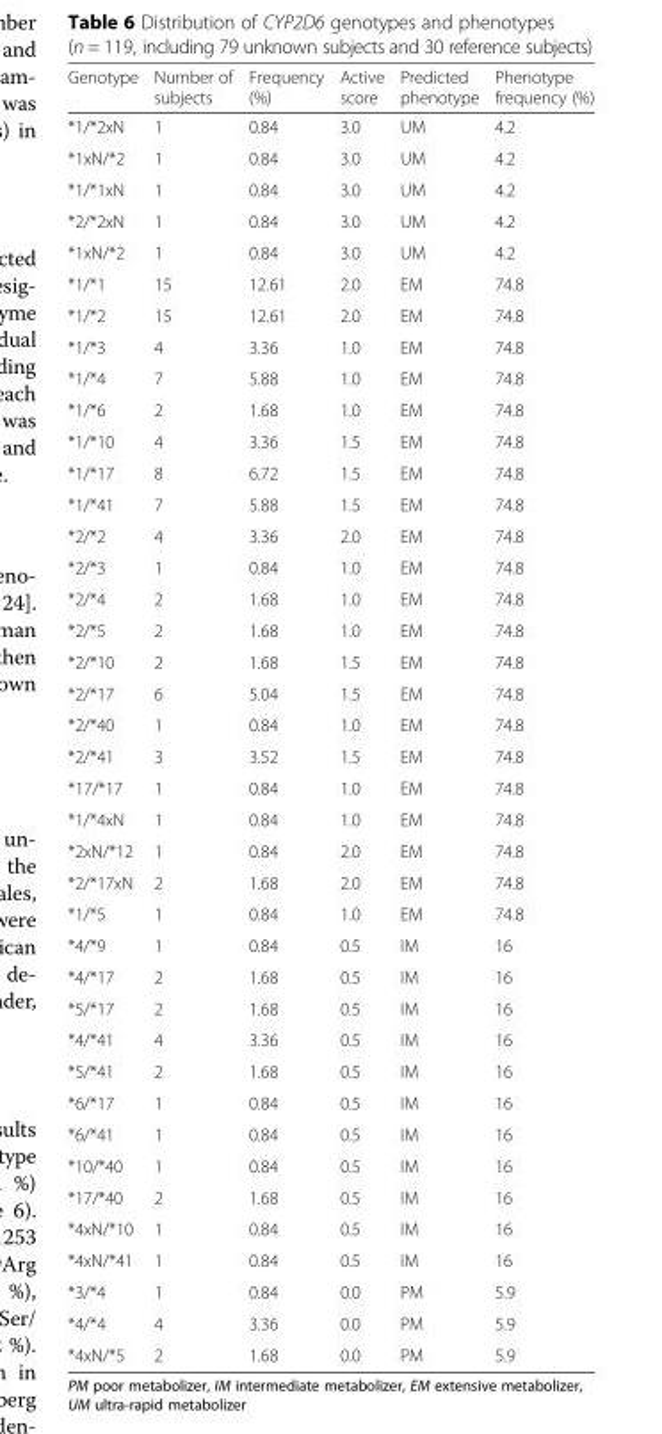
<table><thead><tr><td>Genotype</td><td>Number of subjects</td><td>Frequency (%)</td><td>Active score</td><td>Predicted phenotype</td><td>Phenotype frequency (%)</td></tr></thead><tbody><tr><td>*1/*2xN</td><td>1</td><td>0.84</td><td>3.0</td><td>UM</td><td>4.2</td></tr><tr><td>*1xN/*2</td><td>1</td><td>0.84</td><td>3.0</td><td>UM</td><td>4.2</td></tr><tr><td>*1/*1xN</td><td>1</td><td>0.84</td><td>3.0</td><td>UM</td><td>4.2</td></tr><tr><td>*2/*2xN</td><td>1</td><td>0.84</td><td>3.0</td><td>UM</td><td>4.2</td></tr><tr><td>*1xN/*2</td><td>1</td><td>0.84</td><td>3.0</td><td>UM</td><td>4.2</td></tr><tr><td>*1/*1</td><td>15</td><td>12.61</td><td>2.0</td><td>EM</td><td>74.8</td></tr><tr><td>*1/*2</td><td>15</td><td>12.61</td><td>2.0</td><td>EM</td><td>74.8</td></tr><tr><td>*1/*3</td><td>4</td><td>3.36</td><td>1.0</td><td>EM</td><td>74.8</td></tr><tr><td>*1/*4</td><td>7</td><td>5.88</td><td>1.0</td><td>EM</td><td>74.8</td></tr><tr><td>*1/*6</td><td>2</td><td>1.68</td><td>1.0</td><td>EM</td><td>74.8</td></tr><tr><td>*1/*10</td><td>4</td><td>3.36</td><td>1.5</td><td>EM</td><td>74.8</td></tr><tr><td>*1/*17</td><td>8</td><td>6.72</td><td>1.5</td><td>EM</td><td>74.8</td></tr><tr><td>*1/*41</td><td>7</td><td>5.88</td><td>1.5</td><td>EM</td><td>74.8</td></tr><tr><td>*2/*2</td><td>4</td><td>3.36</td><td>2.0</td><td>EM</td><td>74.8</td></tr><tr><td>*2/*3</td><td>1</td><td>0.84</td><td>1.0</td><td>EM</td><td>74.8</td></tr><tr><td>*2/*4</td><td>2</td><td>1.68</td><td>1.0</td><td>EM</td><td>74.8</td></tr><tr><td>*2/*5</td><td>2</td><td>1.68</td><td>1.0</td><td>EM</td><td>74.8</td></tr><tr><td>*2/*10</td><td>2</td><td>1.68</td><td>1.5</td><td>EM</td><td>74.8</td></tr><tr><td>*2/*17</td><td>6</td><td>5.04</td><td>1.5</td><td>EM</td><td>74.8</td></tr><tr><td>*2/*40</td><td>1</td><td>0.84</td><td>1.0</td><td>EM</td><td>74.8</td></tr><tr><td>*2/*41</td><td>3</td><td>3.52</td><td>1.5</td><td>EM</td><td>74.8</td></tr><tr><td>*17/*17</td><td>1</td><td>0.84</td><td>1.0</td><td>EM</td><td>74.8</td></tr><tr><td>*1/*4xN</td><td>1</td><td>0.84</td><td>1.0</td><td>EM</td><td>74.8</td></tr><tr><td>*2xN/*12</td><td>1</td><td>0.84</td><td>2.0</td><td>EM</td><td>74.8</td></tr><tr><td>*2/*17xN</td><td>2</td><td>1.68</td><td>2.0</td><td>EM</td><td>74.8</td></tr><tr><td>*1/*5</td><td>1</td><td>0.84</td><td>1.0</td><td>EM</td><td>74.8</td></tr><tr><td>*4/*9</td><td>1</td><td>0.84</td><td>0.5</td><td>IM</td><td>16</td></tr><tr><td>*4/*17</td><td>2</td><td>1.68</td><td>0.5</td><td>IM</td><td>16</td></tr><tr><td>*5/*17</td><td>2</td><td>1.68</td><td>0.5</td><td>IM</td><td>16</td></tr><tr><td>*4/*41</td><td>4</td><td>3.36</td><td>0.5</td><td>IM</td><td>16</td></tr><tr><td>*5/*41</td><td>2</td><td>1.68</td><td>0.5</td><td>IM</td><td>16</td></tr><tr><td>*6/*17</td><td>1</td><td>0.84</td><td>0.5</td><td>IM</td><td>16</td></tr><tr><td>*6/*41</td><td>1</td><td>0.84</td><td>0.5</td><td>IM</td><td>16</td></tr><tr><td>*10/*40</td><td>1</td><td>0.84</td><td>0.5</td><td>IM</td><td>16</td></tr><tr><td>*17/*40</td><td>2</td><td>1.68</td><td>0.5</td><td>IM</td><td>16</td></tr><tr><td>*4xN/*10</td><td>1</td><td>0.84</td><td>0.5</td><td>IM</td><td>16</td></tr><tr><td>*4xN/*41</td><td>1</td><td>0.84</td><td>0.5</td><td>IM</td><td>16</td></tr><tr><td>*3/*4</td><td>1</td><td>0.84</td><td>0.0</td><td>PM</td><td>5.9</td></tr><tr><td>*4/*4</td><td>4</td><td>3.36</td><td>0.0</td><td>PM</td><td>5.9</td></tr><tr><td>*4xN/*5</td><td>2</td><td>1.68</td><td>0.0</td><td>PM</td><td>5.9</td></tr></tbody></table>